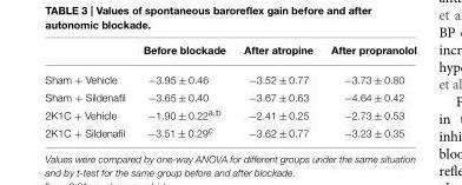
<table><thead><tr><td></td><td>Before blockade</td><td>After atropine</td><td>After propranolol</td></tr></thead><tbody><tr><td>Sham + Vehicle</td><td>−3.95 ± 0.46</td><td>−3.52 ± 0.77</td><td>−3.73 ± 0.80</td></tr><tr><td>Sham + Sildenafil</td><td>−3.65 ± 0.40</td><td>−3.67 ± 0.63</td><td>−4.64 ± 0.42</td></tr><tr><td>2K1C + Vehicle</td><td>−1.90 ± 0.22<sup>a</sup>,<sup>b</sup></td><td>−2.41 ± 0.25</td><td>−2.73 ± 0.53</td></tr><tr><td>2K1C + Sildenafil</td><td>−3.51 ± 0.29<sup>c</sup></td><td>−3.62 ± 0.77</td><td>−3.23 ± 0.35</td></tr></tbody></table>